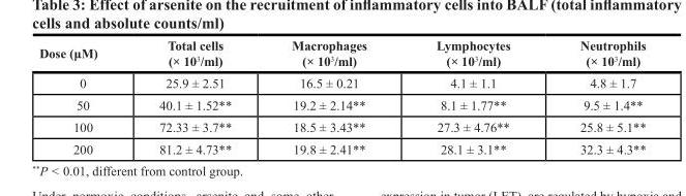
<table><thead><tr><td>Dose (μM)</td><td>Total cells (× 10<sup>3</sup>/ml)</td><td>Macrophages (× 10<sup>3</sup>/ml)</td><td>Lymphocytes (× 10<sup>3</sup>/ml)</td><td>Neutrophils (× 10<sup>3</sup>/ml)</td></tr></thead><tbody><tr><td>0</td><td>25.9 ± 2.51</td><td>16.5 ± 0.21</td><td>4.1 ± 1.1</td><td>4.8 ± 1.7</td></tr><tr><td>50</td><td>40.1 ± 1.52**</td><td>19.2 ± 2.14**</td><td>8.1 ± 1.77**</td><td>9.5 ± 1.4**</td></tr><tr><td>100</td><td>72.33 ± 3.7**</td><td>18.5 ± 3.43**</td><td>27.3 ± 4.76**</td><td>25.8 ± 5.1**</td></tr><tr><td>200</td><td>81.2 ± 4.73**</td><td>19.8 ± 2.41**</td><td>28.1 ± 3.1**</td><td>32.3 ± 4.3**</td></tr></tbody></table>